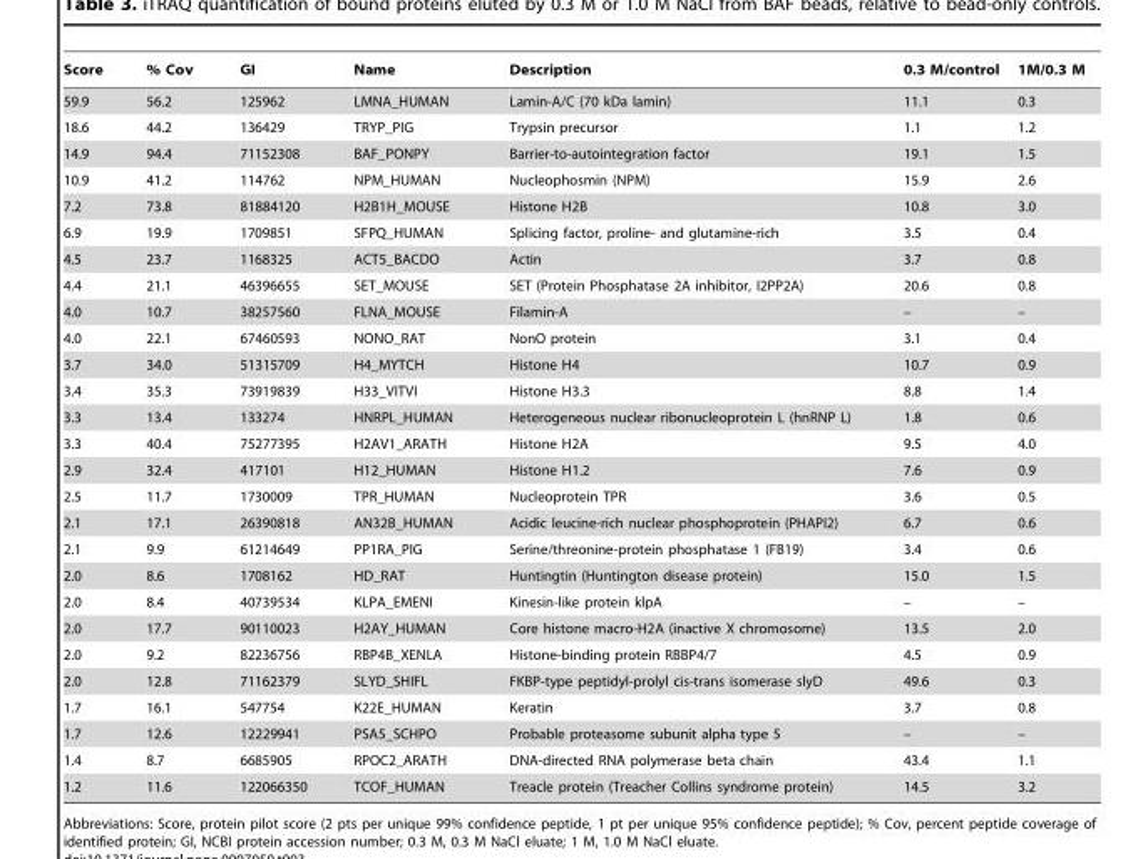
<table><thead><tr><td>Score</td><td>% Cov</td><td>GI</td><td>Name</td><td>Description</td><td>0.3 M/control</td><td>1M/0.3 M</td></tr></thead><tbody><tr><td>59.9</td><td>56.2</td><td>125962</td><td>LMNA_HUMAN</td><td>Lamin-A/C (70 kDa lamin)</td><td>11.1</td><td>0.3</td></tr><tr><td>18.6</td><td>44.2</td><td>136429</td><td>TRYP_PIG</td><td>Trypsin precursor</td><td>1.1</td><td>1.2</td></tr><tr><td>14.9</td><td>94.4</td><td>71152308</td><td>BAF_PONPY</td><td>Barrier-to-autointegration factor</td><td>19.1</td><td>1.5</td></tr><tr><td>10.9</td><td>41.2</td><td>114762</td><td>NPM_HUMAN</td><td>Nucleophosmin (NPM)</td><td>15.9</td><td>2.6</td></tr><tr><td>7.2</td><td>73.8</td><td>81884120</td><td>H2B1H_MOUSE</td><td>Histone H2B</td><td>10.8</td><td>3.0</td></tr><tr><td>6.9</td><td>19.9</td><td>1709851</td><td>SFPQ_HUMAN</td><td>Splicing factor, proline- and glutamine-rich</td><td>3.5</td><td>0.4</td></tr><tr><td>4.5</td><td>23.7</td><td>1168325</td><td>ACT5_BACDO</td><td>Actin</td><td>3.7</td><td>0.8</td></tr><tr><td>4.4</td><td>21.1</td><td>46396655</td><td>SET_MOUSE</td><td>SET (Protein Phosphatase 2A inhibitor, I2PP2A)</td><td>20.6</td><td>0.8</td></tr><tr><td>4.0</td><td>10.7</td><td>38257560</td><td>FLNA_MOUSE</td><td>Filamin-A</td><td>–</td><td>–</td></tr><tr><td>4.0</td><td>22.1</td><td>67460593</td><td>NONO_RAT</td><td>NonO protein</td><td>3.1</td><td>0.4</td></tr><tr><td>3.7</td><td>34.0</td><td>51315709</td><td>H4_MYTCH</td><td>Histone H4</td><td>10.7</td><td>0.9</td></tr><tr><td>3.4</td><td>35.3</td><td>73919839</td><td>H33_VITVI</td><td>Histone H3.3</td><td>8.8</td><td>1.4</td></tr><tr><td>3.3</td><td>13.4</td><td>133274</td><td>HNRPL_HUMAN</td><td>Heterogeneous nuclear ribonucleoprotein L (hnRNP L)</td><td>1.8</td><td>0.6</td></tr><tr><td>3.3</td><td>40.4</td><td>75277395</td><td>H2AV1_ARATH</td><td>Histone H2A</td><td>9.5</td><td>4.0</td></tr><tr><td>2.9</td><td>32.4</td><td>417101</td><td>H12_HUMAN</td><td>Histone H1.2</td><td>7.6</td><td>0.9</td></tr><tr><td>2.5</td><td>11.7</td><td>1730009</td><td>TPR_HUMAN</td><td>Nucleoprotein TPR</td><td>3.6</td><td>0.5</td></tr><tr><td>2.1</td><td>17.1</td><td>26390818</td><td>AN32B_HUMAN</td><td>Acidic leucine-rich nuclear phosphoprotein (PHAPI2)</td><td>6.7</td><td>0.6</td></tr><tr><td>2.1</td><td>9.9</td><td>61214649</td><td>PP1RA_PIG</td><td>Serine/threonine-protein phosphatase 1 (FB19)</td><td>3.4</td><td>0.6</td></tr><tr><td>2.0</td><td>8.6</td><td>1708162</td><td>HD_RAT</td><td>Huntingtin (Huntington disease protein)</td><td>15.0</td><td>1.5</td></tr><tr><td>2.0</td><td>8.4</td><td>40739534</td><td>KLPA_EMENI</td><td>Kinesin-like protein klpA</td><td>–</td><td>–</td></tr><tr><td>2.0</td><td>17.7</td><td>90110023</td><td>H2AY_HUMAN</td><td>Core histone macro-H2A (inactive X chromosome)</td><td>13.5</td><td>2.0</td></tr><tr><td>2.0</td><td>9.2</td><td>82236756</td><td>RBP4B_XENLA</td><td>Histone-binding protein RBBP4/7</td><td>4.5</td><td>0.9</td></tr><tr><td>2.0</td><td>12.8</td><td>71162379</td><td>SLYD_SHIFL</td><td>FKBP-type peptidyl-prolyl cis-trans isomerase slyD</td><td>49.6</td><td>0.3</td></tr><tr><td>1.7</td><td>16.1</td><td>547754</td><td>K22E_HUMAN</td><td>Keratin</td><td>3.7</td><td>0.8</td></tr><tr><td>1.7</td><td>12.6</td><td>12229941</td><td>PSA5_SCHPO</td><td>Probable proteasome subunit alpha type 5</td><td>–</td><td>–</td></tr><tr><td>1.4</td><td>8.7</td><td>6685905</td><td>RPOC2_ARATH</td><td>DNA-directed RNA polymerase beta chain</td><td>43.4</td><td>1.1</td></tr><tr><td>1.2</td><td>11.6</td><td>122066350</td><td>TCOF_HUMAN</td><td>Treacle protein (Treacher Collins syndrome protein)</td><td>14.5</td><td>3.2</td></tr></tbody></table>